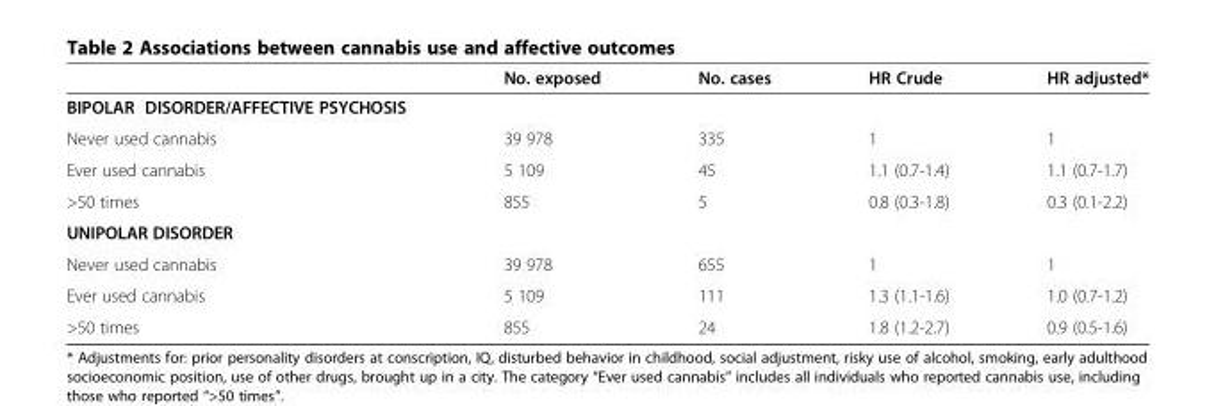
<table><thead><tr><td></td><td>No. exposed</td><td>No. cases</td><td>HR Crude</td><td>HR adjusted*</td></tr></thead><tbody><tr><td colspan="5">BIPOLAR DISORDER/AFFECTIVE PSYCHOSIS</td></tr><tr><td>Never used cannabis</td><td>39 978</td><td>335</td><td>1</td><td>1</td></tr><tr><td>Ever used cannabis</td><td>5 109</td><td>45</td><td>1.1 (0.7-1.4)</td><td>1.1 (0.7-1.7)</td></tr><tr><td>&gt;50 times</td><td>855</td><td>5</td><td>0.8 (0.3-1.8)</td><td>0.3 (0.1-2.2)</td></tr><tr><td colspan="5">UNIPOLAR DISORDER</td></tr><tr><td>Never used cannabis</td><td>39 978</td><td>655</td><td>1</td><td>1</td></tr><tr><td>Ever used cannabis</td><td>5 109</td><td>111</td><td>1.3 (1.1-1.6)</td><td>1.0 (0.7-1.2)</td></tr><tr><td>&gt;50 times</td><td>855</td><td>24</td><td>1.8 (1.2-2.7)</td><td>0.9 (0.5-1.6)</td></tr></tbody></table>